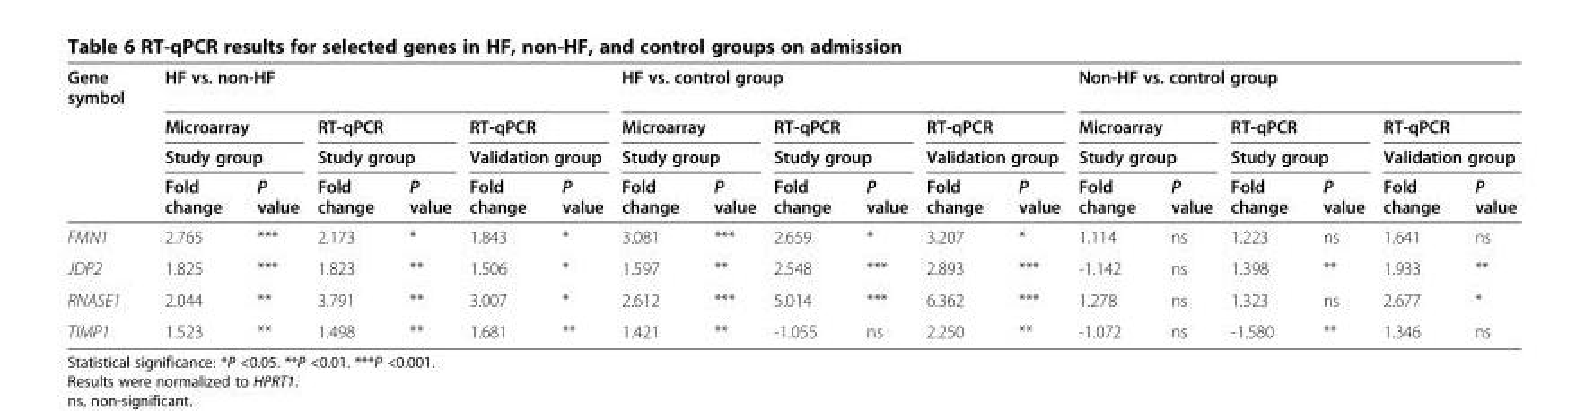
<table><thead><tr><td rowspan="4">Gene symbol</td><td colspan="6">HF vs. non-HF</td><td colspan="6">HF vs. control group</td><td colspan="6">Non-HF vs. control group</td></tr><tr><td rowspan="2" colspan="2">Microarray Study group</td><td rowspan="2" colspan="2">RT-qPCR Study group</td><td rowspan="2" colspan="2">RT-qPCR Validation group</td><td rowspan="2" colspan="2">Microarray Study group</td><td rowspan="2" colspan="2">RT-qPCR Study group</td><td rowspan="2" colspan="2">RT-qPCR Validation group</td><td rowspan="2" colspan="2">Microarray Study group</td><td rowspan="2" colspan="2">RT-qPCR Study group</td><td rowspan="2" colspan="2">RT-qPCR Validation group</td></tr><tr></tr><tr><td>Fold change</td><td>P value</td><td>Fold change</td><td>P value</td><td>Fold change</td><td>P value</td><td>Fold change</td><td>P value</td><td>Fold change</td><td>P value</td><td>Fold change</td><td>P value</td><td>Fold change</td><td>P value</td><td>Fold change</td><td>P value</td><td>Fold change</td><td>P value</td></tr></thead><tbody><tr><td>FMN1</td><td>2.765</td><td>***</td><td>2.173</td><td>*</td><td>1.843</td><td>*</td><td>3.081</td><td>***</td><td>2.659</td><td>*</td><td>3.207</td><td>*</td><td>1.114</td><td>ns</td><td>1.223</td><td>ns</td><td>1.641</td><td>ns</td></tr><tr><td>JDP2</td><td>1.825</td><td>***</td><td>1.823</td><td>**</td><td>1.506</td><td>*</td><td>1.597</td><td>**</td><td>2.548</td><td>***</td><td>2.893</td><td>***</td><td>-1.142</td><td>ns</td><td>1.398</td><td>**</td><td>1.933</td><td>**</td></tr><tr><td>RNASE1</td><td>2.044</td><td>**</td><td>3.791</td><td>**</td><td>3.007</td><td>*</td><td>2.612</td><td>***</td><td>5.014</td><td>***</td><td>6.362</td><td>***</td><td>1.278</td><td>ns</td><td>1.323</td><td>ns</td><td>2.677</td><td>*</td></tr><tr><td>TIMP1</td><td>1.523</td><td>**</td><td>1.498</td><td>**</td><td>1.681</td><td>**</td><td>1.421</td><td>**</td><td>-1.055</td><td>ns</td><td>2.250</td><td>**</td><td>-1.072</td><td>ns</td><td>-1.580</td><td>**</td><td>1.346</td><td>ns</td></tr></tbody></table>